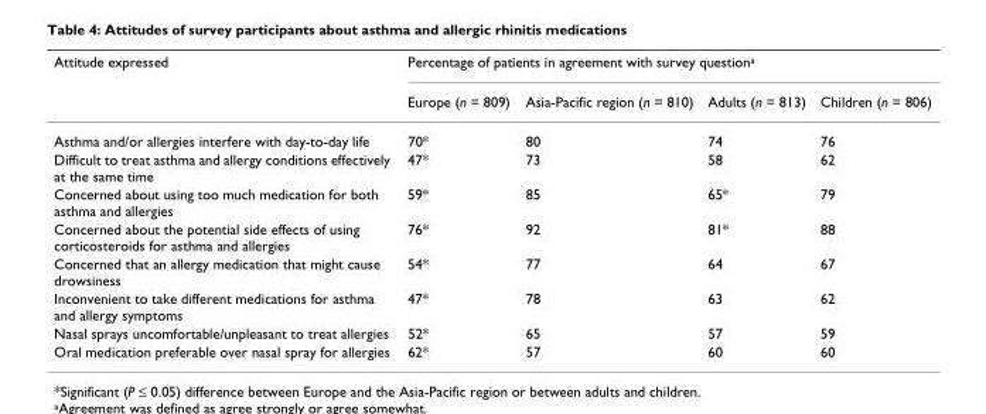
<table><thead><tr><td rowspan="2">Attitude expressed</td><td colspan="4">Percentage of patients in agreement with survey questiona</td></tr><tr><td>Europe (n = 809)</td><td>Asia-Pacific region (n = 810)</td><td>Adults (n = 813)</td><td>Children (n = 806)</td></tr></thead><tbody><tr><td>Asthma and/or allergies interfere with day-to-day life</td><td>70*</td><td>80</td><td>74</td><td>76</td></tr><tr><td>Difficult to treat asthma and allergy conditions effectively at the same time</td><td>47*</td><td>73</td><td>58</td><td>62</td></tr><tr><td>Concerned about using too much medication for both asthma and allergies</td><td>59*</td><td>85</td><td>65*</td><td>79</td></tr><tr><td>Concerned about the potential side effects of using corticosteroids for asthma and allergies</td><td>76*</td><td>92</td><td>81*</td><td>88</td></tr><tr><td>Concerned that an allergy medication that might cause drowsiness</td><td>54*</td><td>77</td><td>64</td><td>67</td></tr><tr><td>Inconvenient to take different medications for asthma and allergy symptoms</td><td>47*</td><td>78</td><td>63</td><td>62</td></tr><tr><td>Nasal sprays uncomfortable/unpleasant to treat allergies</td><td>52*</td><td>65</td><td>57</td><td>59</td></tr><tr><td>Oral medication preferable over nasal spray for allergies</td><td>62*</td><td>57</td><td>60</td><td>60</td></tr></tbody></table>